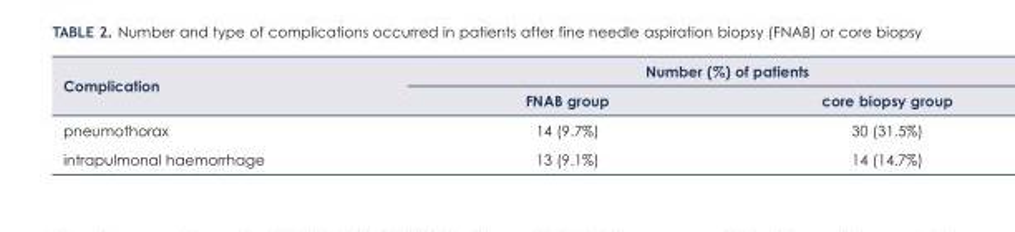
<table><thead><tr><td rowspan="2">Complication</td><td colspan="2">Number (%) of patients</td></tr><tr><td>FNAB group</td><td>core biopsy group</td></tr></thead><tbody><tr><td>pneumothorax</td><td>14 (9.7%)</td><td>30 (31.5%)</td></tr><tr><td>intrapulmonal haemorrhage</td><td>13 (9.1%)</td><td>14 (14.7%)</td></tr></tbody></table>